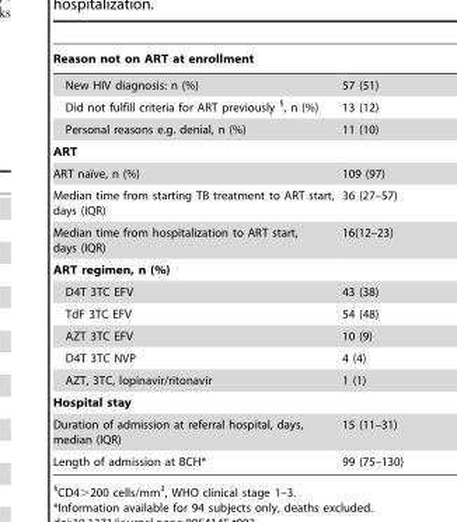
<table><thead><tr><td>Reason not on ART at enrollment</td><td></td></tr></thead><tbody><tr><td>New HIV diagnosis: n (%)</td><td>57 (51)</td></tr><tr><td>Did not fulfill criteria for ART previously §, n (%)</td><td>13 (12)</td></tr><tr><td>Personal reasons e.g. denial, n (%)</td><td>11 (10)</td></tr><tr><td colspan="2">ART</td></tr><tr><td>ART naı¨ve, n (%)</td><td>109 (97)</td></tr><tr><td>Median time from starting TB treatment to ART start, days (IQR)</td><td>36 (27–57)</td></tr><tr><td>Median time from hospitalization to ART start, days (IQR)</td><td>16(12–23)</td></tr><tr><td colspan="2">ART regimen, n (%)</td></tr><tr><td>D4T 3TC EFV</td><td>43 (38)</td></tr><tr><td>TdF 3TC EFV</td><td>54 (48)</td></tr><tr><td>AZT 3TC EFV</td><td>10 (9)</td></tr><tr><td>D4T 3TC NVP</td><td>4 (4)</td></tr><tr><td>AZT, 3TC, lopinavir/ritonavir</td><td>1 (1)</td></tr><tr><td colspan="2">Hospital stay</td></tr><tr><td>Duration of admission at referral hospital, days, median (IQR)</td><td>15 (11–31)</td></tr><tr><td>Length of admission at BCH*</td><td>99 (75–130)</td></tr></tbody></table>